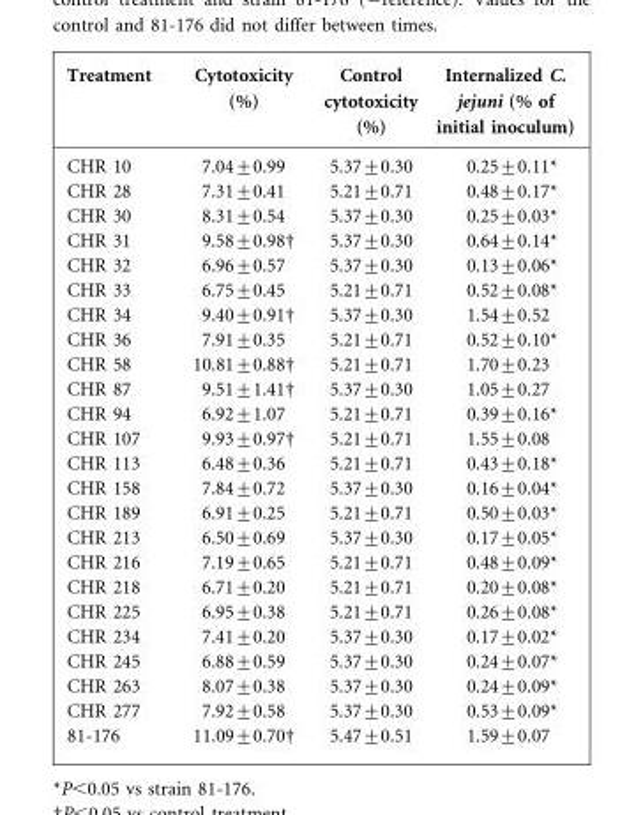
<table><thead><tr><td>Treatment</td><td>Cytotoxicity (%)</td><td>Control cytotoxicity (%)</td><td>Internalized C. jejuni (% of initial inoculum)</td></tr></thead><tbody><tr><td>CHR 10</td><td>7.04±0.99</td><td>5.37±0.30</td><td>0.25±0.11*</td></tr><tr><td>CHR 28</td><td>7.31±0.41</td><td>5.21±0.71</td><td>0.48±0.17*</td></tr><tr><td>CHR 30</td><td>8.31±0.54</td><td>5.37±0.30</td><td>0.25±0.03*</td></tr><tr><td>CHR 31</td><td>9.58±0.98†</td><td>5.37±0.30</td><td>0.64±0.14*</td></tr><tr><td>CHR 32</td><td>6.96±0.57</td><td>5.37±0.30</td><td>0.13±0.06*</td></tr><tr><td>CHR 33</td><td>6.75±0.45</td><td>5.21±0.71</td><td>0.52±0.08*</td></tr><tr><td>CHR 34</td><td>9.40±0.91†</td><td>5.37±0.30</td><td>1.54±0.52</td></tr><tr><td>CHR 36</td><td>7.91±0.35</td><td>5.21±0.71</td><td>0.52±0.10*</td></tr><tr><td>CHR 58</td><td>10.81±0.88†</td><td>5.21±0.71</td><td>1.70±0.23</td></tr><tr><td>CHR 87</td><td>9.51±1.41†</td><td>5.37±0.30</td><td>1.05±0.27</td></tr><tr><td>CHR 94</td><td>6.92±1.07</td><td>5.21±0.71</td><td>0.39±0.16*</td></tr><tr><td>CHR 107</td><td>9.93±0.97†</td><td>5.21±0.71</td><td>1.55±0.08</td></tr><tr><td>CHR 113</td><td>6.48±0.36</td><td>5.21±0.71</td><td>0.43±0.18*</td></tr><tr><td>CHR 158</td><td>7.84±0.72</td><td>5.37±0.30</td><td>0.16±0.04*</td></tr><tr><td>CHR 189</td><td>6.91±0.25</td><td>5.21±0.71</td><td>0.50±0.03*</td></tr><tr><td>CHR 213</td><td>6.50±0.69</td><td>5.37±0.30</td><td>0.17±0.05*</td></tr><tr><td>CHR 216</td><td>7.19±0.65</td><td>5.21±0.71</td><td>0.48±0.09*</td></tr><tr><td>CHR 218</td><td>6.71±0.20</td><td>5.21±0.71</td><td>0.20±0.08*</td></tr><tr><td>CHR 225</td><td>6.95±0.38</td><td>5.21±0.71</td><td>0.26±0.08*</td></tr><tr><td>CHR 234</td><td>7.41±0.20</td><td>5.37±0.30</td><td>0.17±0.02*</td></tr><tr><td>CHR 245</td><td>6.88±0.59</td><td>5.37±0.30</td><td>0.24±0.07*</td></tr><tr><td>CHR 263</td><td>8.07±0.38</td><td>5.37±0.30</td><td>0.24±0.09*</td></tr><tr><td>CHR 277</td><td>7.92±0.58</td><td>5.37±0.30</td><td>0.53±0.09*</td></tr><tr><td>81-176</td><td>11.09±0.70†</td><td>5.47±0.51</td><td>1.59±0.07</td></tr></tbody></table>